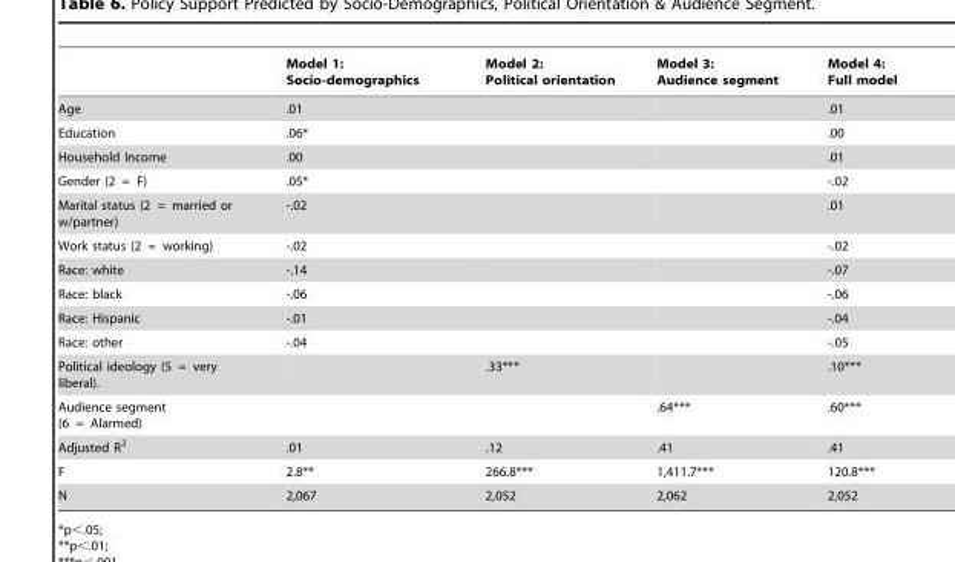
<table><thead><tr><td></td><td>Model 1: Socio-demographics</td><td>Model 2: Political orientation</td><td>Model 3: Audience segment</td><td>Model 4: Full model</td></tr></thead><tbody><tr><td>Age</td><td>.01</td><td></td><td></td><td>.01</td></tr><tr><td>Education</td><td>.06*</td><td></td><td></td><td>.00</td></tr><tr><td>Household Income</td><td>.00</td><td></td><td></td><td>.01</td></tr><tr><td>Gender (2 = F)</td><td>.05*</td><td></td><td></td><td>-.02</td></tr><tr><td>Marital status (2 = married or w/partner)</td><td>-.02</td><td></td><td></td><td>.01</td></tr><tr><td>Work status (2 = working)</td><td>-.02</td><td></td><td></td><td>-.02</td></tr><tr><td>Race: white</td><td>-.14</td><td></td><td></td><td>-.07</td></tr><tr><td>Race: black</td><td>-.06</td><td></td><td></td><td>-.06</td></tr><tr><td>Race: Hispanic</td><td>-.01</td><td></td><td></td><td>-.04</td></tr><tr><td>Race: other</td><td>-.04</td><td></td><td></td><td>-.05</td></tr><tr><td>Political ideology (5 = very liberal).</td><td></td><td>.33***</td><td></td><td>.10***</td></tr><tr><td>Audience segment (6 = Alarmed)</td><td></td><td></td><td>.64***</td><td>.60***</td></tr><tr><td>Adjusted R<sup>2</sup></td><td>.01</td><td>.12</td><td>.41</td><td>.41</td></tr><tr><td>F</td><td>2.8**</td><td>266.8***</td><td>1,411.7***</td><td>120.8***</td></tr><tr><td>N</td><td>2,067</td><td>2,052</td><td>2,062</td><td>2,052</td></tr></tbody></table>